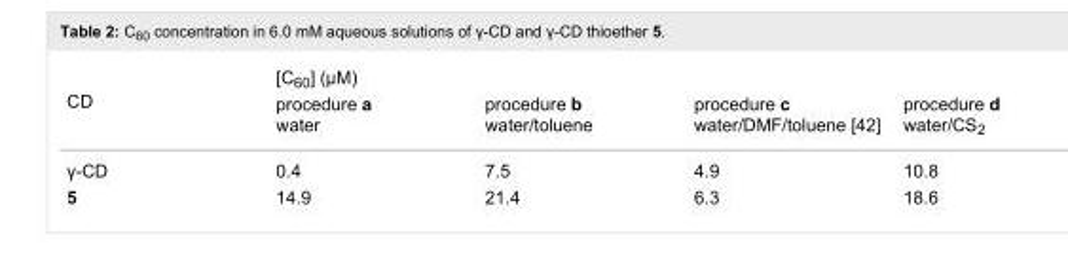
<table><tbody><tr><td rowspan="2">CD</td><td colspan="4">[C<sub>60</sub>] (μM)</td></tr><tr><td>procedure a water</td><td>procedure b water/toluene</td><td>procedure c water/DMF/toluene [42]</td><td>procedure d water/CS<sub>2</sub></td></tr><tr><td>γ-CD</td><td>0.4</td><td>7.5</td><td>4.9</td><td>10.8</td></tr><tr><td>5</td><td>14.9</td><td>21.4</td><td>6.3</td><td>18.6</td></tr></tbody></table>